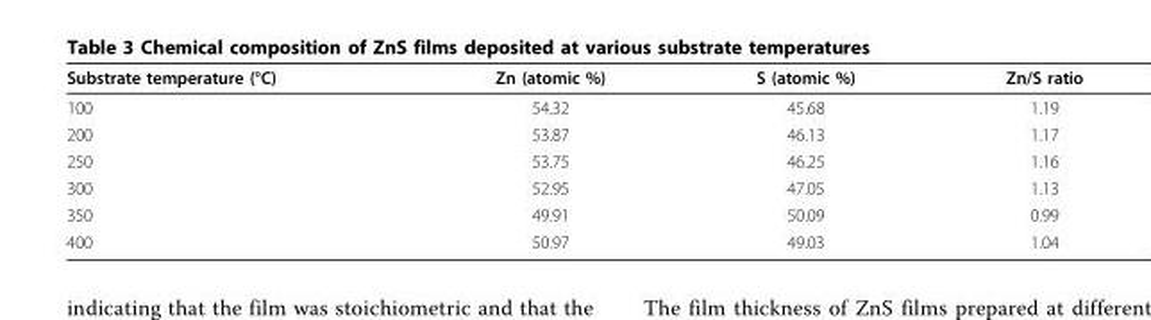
<table><thead><tr><td>Substrate temperature (°C)</td><td>Zn (atomic %)</td><td>S (atomic %)</td><td>Zn/S ratio</td></tr></thead><tbody><tr><td>100</td><td>54.32</td><td>45.68</td><td>1.19</td></tr><tr><td>200</td><td>53.87</td><td>46.13</td><td>1.17</td></tr><tr><td>250</td><td>53.75</td><td>46.25</td><td>1.16</td></tr><tr><td>300</td><td>52.95</td><td>47.05</td><td>1.13</td></tr><tr><td>350</td><td>49.91</td><td>50.09</td><td>0.99</td></tr><tr><td>400</td><td>50.97</td><td>49.03</td><td>1.04</td></tr></tbody></table>